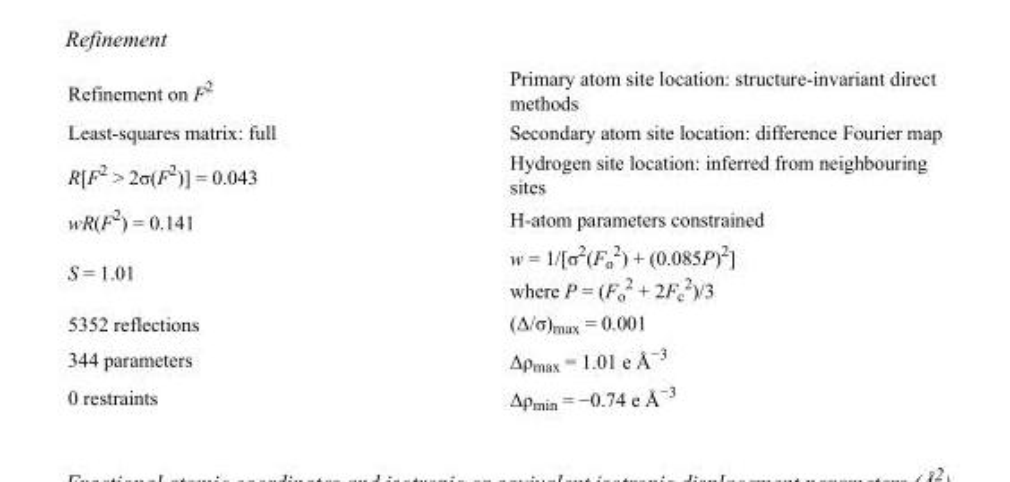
<table><tbody><tr><td>Refinement on F<sup>2</sup></td><td>Primary atom site location: structure-invariant direct methods</td></tr><tr><td>Least-squares matrix: full</td><td>Secondary atom site location: difference Fourier map</td></tr><tr><td>R[F<sup>2</sup> &gt; 2σ(F<sup>2</sup>)] = 0.043</td><td>Hydrogen site location: inferred from neighbouring sites</td></tr><tr><td>wR(F<sup>2</sup>) = 0.141</td><td>H-atom parameters constrained</td></tr><tr><td>S = 1.01</td><td>w = 1/[σ<sup>2</sup>(F<sub>o</sub> <sup>2</sup>) + (0.085P)<sup>2</sup>] where P = (F<sub>o</sub> <sup>2</sup> + 2F<sub>c</sub> <sup>2</sup>)/3</td></tr><tr><td>5352 reflections</td><td>(Δ/σ)<sub>max</sub> = 0.001</td></tr><tr><td>344 parameters</td><td>Δρ<sub>max</sub> = 1.01 e Å<sup>−3</sup></td></tr><tr><td>0 restraints</td><td>Δρ<sub>min</sub> = −0.74 e Å<sup>−3</sup></td></tr></tbody></table>